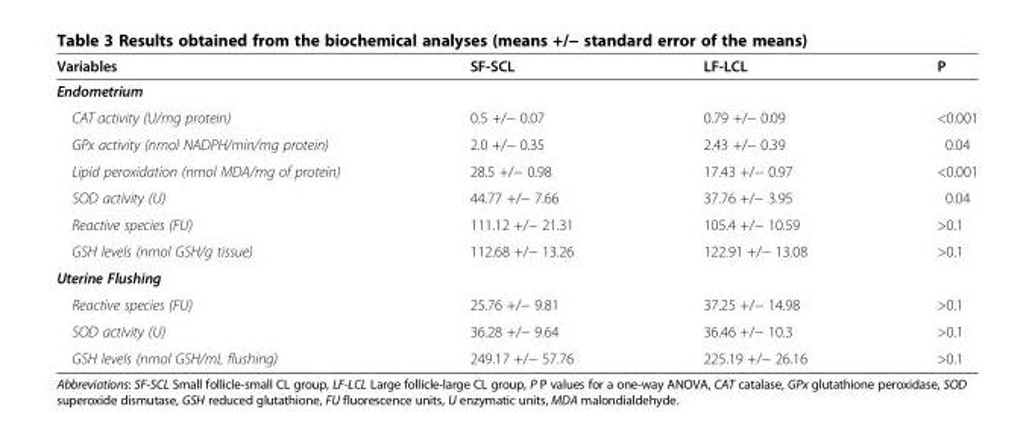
<table><thead><tr><td>Variables</td><td>SF-SCL</td><td>LF-LCL</td><td>P</td></tr></thead><tbody><tr><td colspan="4">Endometrium</td></tr><tr><td>CAT activity (U/mg protein)</td><td>0.5 +/− 0.07</td><td>0.79 +/− 0.09</td><td>&lt;0.001</td></tr><tr><td>GPx activity (nmol NADPH/min/mg protein)</td><td>2.0 +/− 0.35</td><td>2.43 +/− 0.39</td><td>0.04</td></tr><tr><td>Lipid peroxidation (nmol MDA/mg of protein)</td><td>28.5 +/− 0.98</td><td>17.43 +/− 0.97</td><td>&lt;0.001</td></tr><tr><td>SOD activity (U)</td><td>44.77 +/− 7.66</td><td>37.76 +/− 3.95</td><td>0.04</td></tr><tr><td>Reactive species (FU)</td><td>111.12 +/− 21.31</td><td>105.4 +/− 10.59</td><td>&gt;0.1</td></tr><tr><td>GSH levels (nmol GSH/g tissue)</td><td>112.68 +/− 13.26</td><td>122.91 +/− 13.08</td><td>&gt;0.1</td></tr><tr><td colspan="4">Uterine Flushing</td></tr><tr><td>Reactive species (FU)</td><td>25.76 +/− 9.81</td><td>37.25 +/− 14.98</td><td>&gt;0.1</td></tr><tr><td>SOD activity (U)</td><td>36.28 +/− 9.64</td><td>36.46 +/− 10.3</td><td>&gt;0.1</td></tr><tr><td>GSH levels (nmol GSH/mL flushing)</td><td>249.17 +/− 57.76</td><td>225.19 +/− 26.16</td><td>&gt;0.1</td></tr></tbody></table>